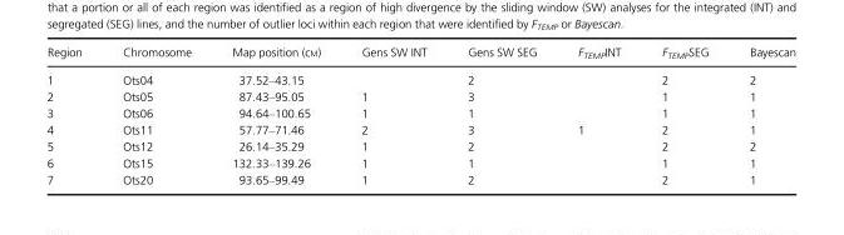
<table><thead><tr><td>Region</td><td>Chromosome</td><td>Map position (cM)</td><td>Gens SW INT</td><td>Gens SW SEG</td><td>F<sub>TEMP</sub>INT</td><td>F<sub>TEMP</sub>SEG</td><td>Bayescan</td></tr></thead><tbody><tr><td>1</td><td>Ots04</td><td>37.52–43.15</td><td></td><td>2</td><td></td><td>2</td><td>2</td></tr><tr><td>2</td><td>Ots05</td><td>87.43–95.05</td><td>1</td><td>3</td><td></td><td>1</td><td>1</td></tr><tr><td>3</td><td>Ots06</td><td>94.64–100.65</td><td>1</td><td>1</td><td></td><td>1</td><td>1</td></tr><tr><td>4</td><td>Ots11</td><td>57.77–71.46</td><td>2</td><td>3</td><td>1</td><td>2</td><td>1</td></tr><tr><td>5</td><td>Ots12</td><td>26.14–35.29</td><td>1</td><td>2</td><td></td><td>2</td><td>2</td></tr><tr><td>6</td><td>Ots15</td><td>132.33–139.26</td><td>1</td><td>1</td><td></td><td>1</td><td>1</td></tr><tr><td>7</td><td>Ots20</td><td>93.65–99.49</td><td>1</td><td>2</td><td></td><td>2</td><td>1</td></tr></tbody></table>